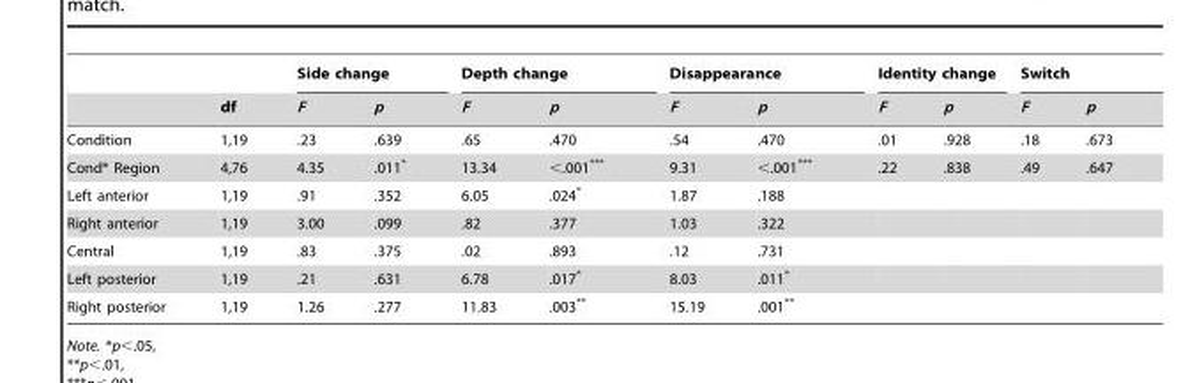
<table><thead><tr><td rowspan="2"></td><td rowspan="2">df</td><td colspan="2">Side change</td><td colspan="2">Depth change</td><td colspan="2">Disappearance</td><td colspan="2">Identity change</td><td colspan="2">Switch</td></tr><tr><td>F</td><td>p</td><td>F</td><td>p</td><td>F</td><td>p</td><td>F</td><td>p</td><td>F</td><td>p</td></tr></thead><tbody><tr><td>Condition</td><td>1,19</td><td>.23</td><td>.639</td><td>.65</td><td>.470</td><td>.54</td><td>.470</td><td>.01</td><td>.928</td><td>.18</td><td>.673</td></tr><tr><td>Cond* Region</td><td>4,76</td><td>4.35</td><td>.011*</td><td>13.34</td><td>&lt;.001***</td><td>9.31</td><td>&lt;.001***</td><td>.22</td><td>.838</td><td>.49</td><td>.647</td></tr><tr><td>Left anterior</td><td>1,19</td><td>.91</td><td>.352</td><td>6.05</td><td>.024*</td><td>1.87</td><td>.188</td><td></td><td></td><td></td><td></td></tr><tr><td>Right anterior</td><td>1,19</td><td>3.00</td><td>.099</td><td>.82</td><td>.377</td><td>1.03</td><td>.322</td><td></td><td></td><td></td><td></td></tr><tr><td>Central</td><td>1,19</td><td>.83</td><td>.375</td><td>.02</td><td>.893</td><td>.12</td><td>.731</td><td></td><td></td><td></td><td></td></tr><tr><td>Left posterior</td><td>1,19</td><td>.21</td><td>.631</td><td>6.78</td><td>.017*</td><td>8.03</td><td>.011*</td><td></td><td></td><td></td><td></td></tr><tr><td>Right posterior</td><td>1,19</td><td>1.26</td><td>.277</td><td>11.83</td><td>.003**</td><td>15.19</td><td>.001**</td><td></td><td></td><td></td><td></td></tr></tbody></table>